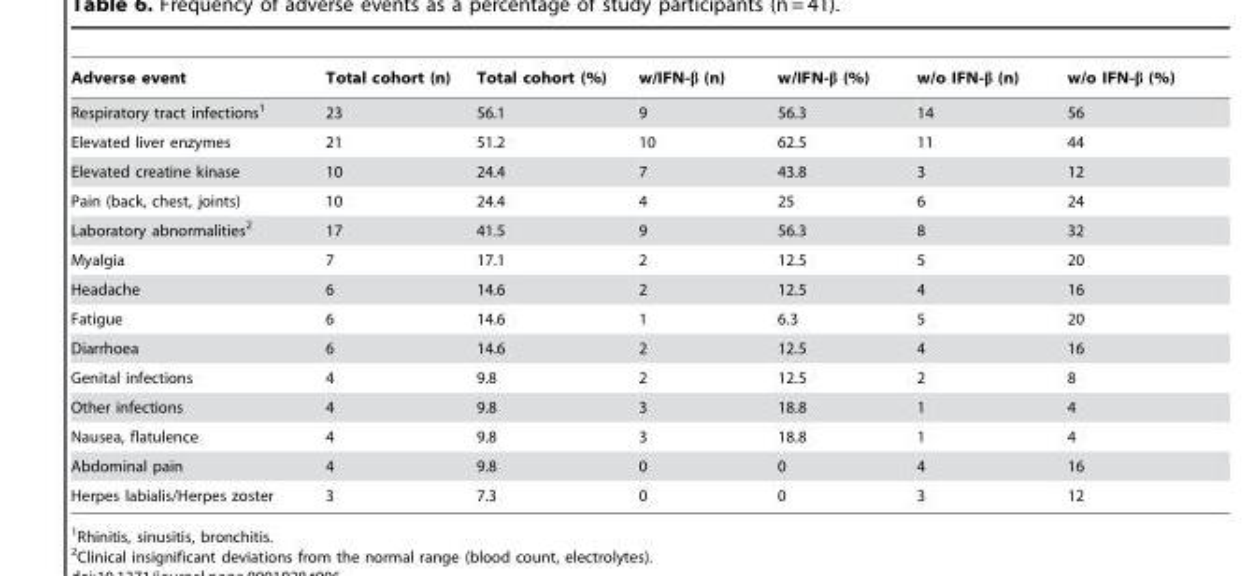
<table><thead><tr><td>Adverse event</td><td>Total cohort (n)</td><td>Total cohort (%)</td><td>w/IFN-β (n)</td><td>w/IFN-β (%)</td><td>w/o IFN-β (n)</td><td>w/o IFN-β (%)</td></tr></thead><tbody><tr><td>Respiratory tract infections<sup>1</sup></td><td>23</td><td>56.1</td><td>9</td><td>56.3</td><td>14</td><td>56</td></tr><tr><td>Elevated liver enzymes</td><td>21</td><td>51.2</td><td>10</td><td>62.5</td><td>11</td><td>44</td></tr><tr><td>Elevated creatine kinase</td><td>10</td><td>24.4</td><td>7</td><td>43.8</td><td>3</td><td>12</td></tr><tr><td>Pain (back, chest, joints)</td><td>10</td><td>24.4</td><td>4</td><td>25</td><td>6</td><td>24</td></tr><tr><td>Laboratory abnormalities<sup>2</sup></td><td>17</td><td>41.5</td><td>9</td><td>56.3</td><td>8</td><td>32</td></tr><tr><td>Myalgia</td><td>7</td><td>17.1</td><td>2</td><td>12.5</td><td>5</td><td>20</td></tr><tr><td>Headache</td><td>6</td><td>14.6</td><td>2</td><td>12.5</td><td>4</td><td>16</td></tr><tr><td>Fatigue</td><td>6</td><td>14.6</td><td>1</td><td>6.3</td><td>5</td><td>20</td></tr><tr><td>Diarrhoea</td><td>6</td><td>14.6</td><td>2</td><td>12.5</td><td>4</td><td>16</td></tr><tr><td>Genital infections</td><td>4</td><td>9.8</td><td>2</td><td>12.5</td><td>2</td><td>8</td></tr><tr><td>Other infections</td><td>4</td><td>9.8</td><td>3</td><td>18.8</td><td>1</td><td>4</td></tr><tr><td>Nausea, flatulence</td><td>4</td><td>9.8</td><td>3</td><td>18.8</td><td>1</td><td>4</td></tr><tr><td>Abdominal pain</td><td>4</td><td>9.8</td><td>0</td><td>0</td><td>4</td><td>16</td></tr><tr><td>Herpes labialis/Herpes zoster</td><td>3</td><td>7.3</td><td>0</td><td>0</td><td>3</td><td>12</td></tr></tbody></table>